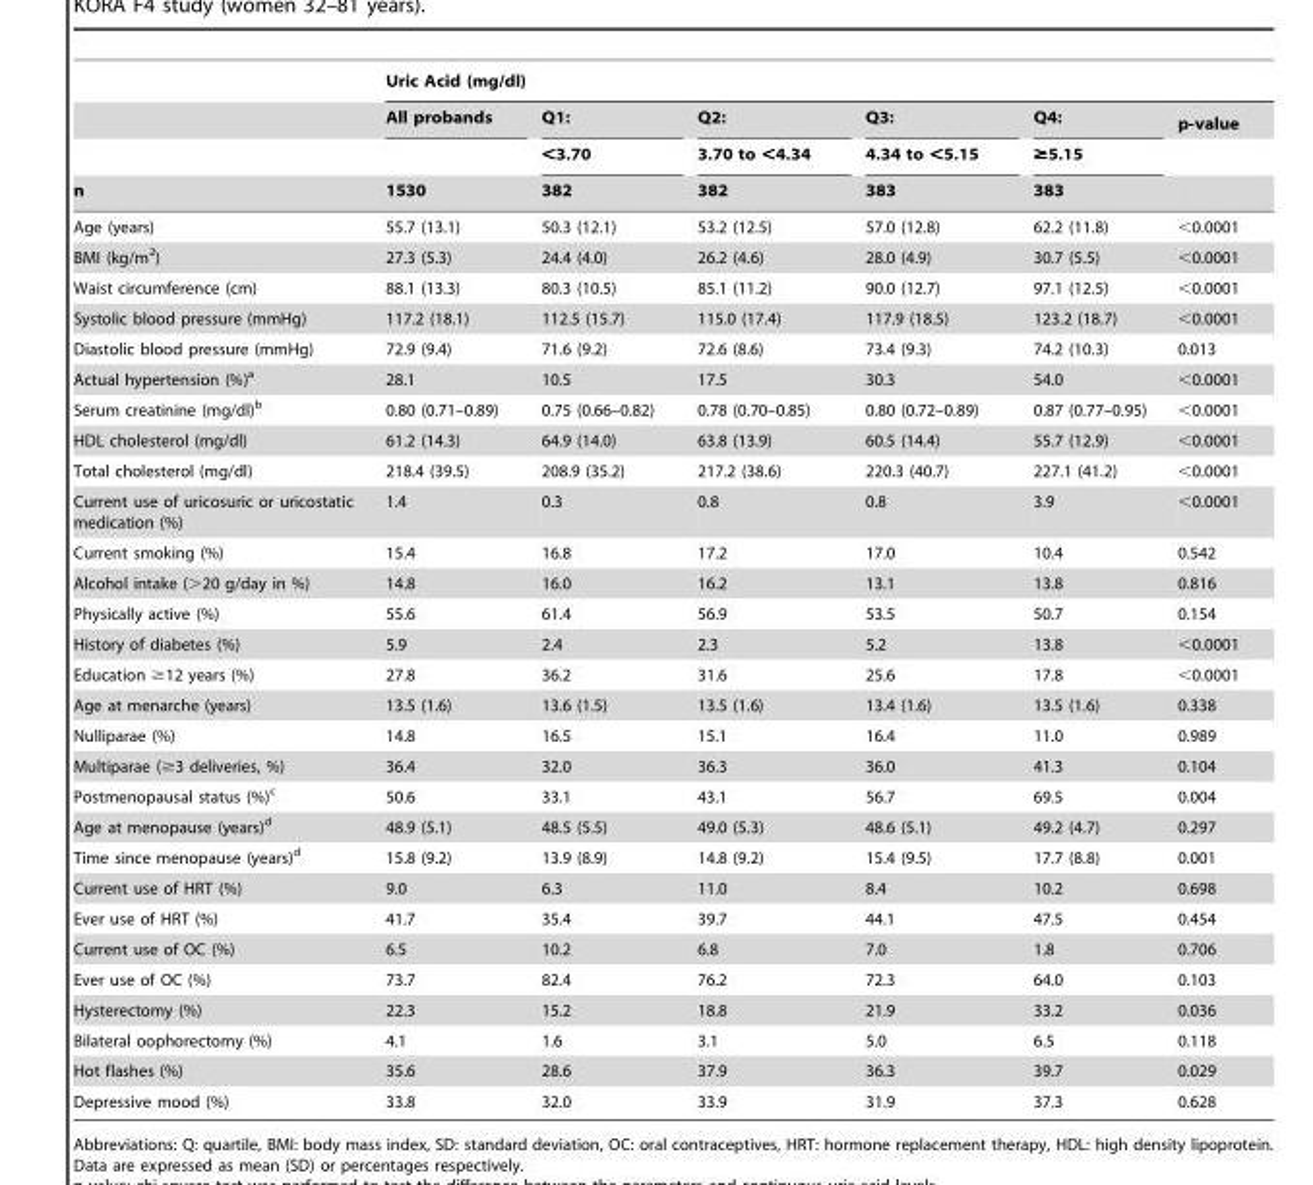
<table><thead><tr><td rowspan="4">n</td><td colspan="6">Uric Acid (mg/dl)</td></tr><tr><td rowspan="3">All probands 1530</td><td rowspan="3">Q1: &lt;3.70 382</td><td rowspan="3">Q2: 3.70 to &lt;4.34 382</td><td rowspan="3">Q3: 4.34 to &lt;5.15 383</td><td rowspan="3">Q4: ≥5.15 383</td><td rowspan="3">p-value</td></tr><tr></tr><tr></tr></thead><tbody><tr><td>Age (years)</td><td>55.7 (13.1)</td><td>50.3 (12.1)</td><td>53.2 (12.5)</td><td>57.0 (12.8)</td><td>62.2 (11.8)</td><td>&lt;0.0001</td></tr><tr><td>BMI (kg/m<sup>2</sup>)</td><td>27.3 (5.3)</td><td>24.4 (4.0)</td><td>26.2 (4.6)</td><td>28.0 (4.9)</td><td>30.7 (5.5)</td><td>&lt;0.0001</td></tr><tr><td>Waist circumference (cm)</td><td>88.1 (13.3)</td><td>80.3 (10.5)</td><td>85.1 (11.2)</td><td>90.0 (12.7)</td><td>97.1 (12.5)</td><td>&lt;0.0001</td></tr><tr><td>Systolic blood pressure (mmHg)</td><td>117.2 (18.1)</td><td>112.5 (15.7)</td><td>115.0 (17.4)</td><td>117.9 (18.5)</td><td>123.2 (18.7)</td><td>&lt;0.0001</td></tr><tr><td>Diastolic blood pressure (mmHg)</td><td>72.9 (9.4)</td><td>71.6 (9.2)</td><td>72.6 (8.6)</td><td>73.4 (9.3)</td><td>74.2 (10.3)</td><td>0.013</td></tr><tr><td>Actual hypertension (%)<sup>a</sup></td><td>28.1</td><td>10.5</td><td>17.5</td><td>30.3</td><td>54.0</td><td>&lt;0.0001</td></tr><tr><td>Serum creatinine (mg/dl)<sup>b</sup></td><td>0.80 (0.71–0.89)</td><td>0.75 (0.66–0.82)</td><td>0.78 (0.70–0.85)</td><td>0.80 (0.72–0.89)</td><td>0.87 (0.77–0.95)</td><td>&lt;0.0001</td></tr><tr><td>HDL cholesterol (mg/dl)</td><td>61.2 (14.3)</td><td>64.9 (14.0)</td><td>63.8 (13.9)</td><td>60.5 (14.4)</td><td>55.7 (12.9)</td><td>&lt;0.0001</td></tr><tr><td>Total cholesterol (mg/dl)</td><td>218.4 (39.5)</td><td>208.9 (35.2)</td><td>217.2 (38.6)</td><td>220.3 (40.7)</td><td>227.1 (41.2)</td><td>&lt;0.0001</td></tr><tr><td>Current use of uricosuric or uricostatic medication (%)</td><td>1.4</td><td>0.3</td><td>0.8</td><td>0.8</td><td>3.9</td><td>&lt;0.0001</td></tr><tr><td>Current smoking (%)</td><td>15.4</td><td>16.8</td><td>17.2</td><td>17.0</td><td>10.4</td><td>0.542</td></tr><tr><td>Alcohol intake (&gt;20 g/day in %)</td><td>14.8</td><td>16.0</td><td>16.2</td><td>13.1</td><td>13.8</td><td>0.816</td></tr><tr><td>Physically active (%)</td><td>55.6</td><td>61.4</td><td>56.9</td><td>53.5</td><td>50.7</td><td>0.154</td></tr><tr><td>History of diabetes (%)</td><td>5.9</td><td>2.4</td><td>2.3</td><td>5.2</td><td>13.8</td><td>&lt;0.0001</td></tr><tr><td>Education ≥12 years (%)</td><td>27.8</td><td>36.2</td><td>31.6</td><td>25.6</td><td>17.8</td><td>&lt;0.0001</td></tr><tr><td>Age at menarche (years)</td><td>13.5 (1.6)</td><td>13.6 (1.5)</td><td>13.5 (1.6)</td><td>13.4 (1.6)</td><td>13.5 (1.6)</td><td>0.338</td></tr><tr><td>Nulliparae (%)</td><td>14.8</td><td>16.5</td><td>15.1</td><td>16.4</td><td>11.0</td><td>0.989</td></tr><tr><td>Multiparae (≥3 deliveries, %)</td><td>36.4</td><td>32.0</td><td>36.3</td><td>36.0</td><td>41.3</td><td>0.104</td></tr><tr><td>Postmenopausal status (%)<sup>c</sup></td><td>50.6</td><td>33.1</td><td>43.1</td><td>56.7</td><td>69.5</td><td>0.004</td></tr><tr><td>Age at menopause (years)<sup>d</sup></td><td>48.9 (5.1)</td><td>48.5 (5.5)</td><td>49.0 (5.3)</td><td>48.6 (5.1)</td><td>49.2 (4.7)</td><td>0.297</td></tr><tr><td>Time since menopause (years)<sup>d</sup></td><td>15.8 (9.2)</td><td>13.9 (8.9)</td><td>14.8 (9.2)</td><td>15.4 (9.5)</td><td>17.7 (8.8)</td><td>0.001</td></tr><tr><td>Current use of HRT (%)</td><td>9.0</td><td>6.3</td><td>11.0</td><td>8.4</td><td>10.2</td><td>0.698</td></tr><tr><td>Ever use of HRT (%)</td><td>41.7</td><td>35.4</td><td>39.7</td><td>44.1</td><td>47.5</td><td>0.454</td></tr><tr><td>Current use of OC (%)</td><td>6.5</td><td>10.2</td><td>6.8</td><td>7.0</td><td>1.8</td><td>0.706</td></tr><tr><td>Ever use of OC (%)</td><td>73.7</td><td>82.4</td><td>76.2</td><td>72.3</td><td>64.0</td><td>0.103</td></tr><tr><td>Hysterectomy (%)</td><td>22.3</td><td>15.2</td><td>18.8</td><td>21.9</td><td>33.2</td><td>0.036</td></tr><tr><td>Bilateral oophorectomy (%)</td><td>4.1</td><td>1.6</td><td>3.1</td><td>5.0</td><td>6.5</td><td>0.118</td></tr><tr><td>Hot flashes (%)</td><td>35.6</td><td>28.6</td><td>37.9</td><td>36.3</td><td>39.7</td><td>0.029</td></tr><tr><td>Depressive mood (%)</td><td>33.8</td><td>32.0</td><td>33.9</td><td>31.9</td><td>37.3</td><td>0.628</td></tr></tbody></table>